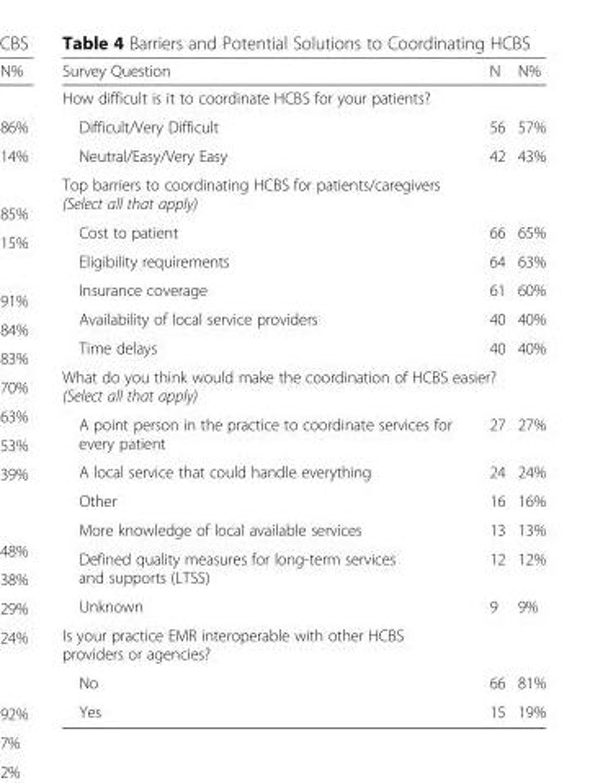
<table><thead><tr><td>Survey Question</td><td>N</td><td>N%</td></tr></thead><tbody><tr><td colspan="3">How difficult is it to coordinate HCBS for your patients?</td></tr><tr><td>Difficult/Very Difficult</td><td>56</td><td>57%</td></tr><tr><td>Neutral/Easy/Very Easy</td><td>42</td><td>43%</td></tr><tr><td colspan="3">Top barriers to coordinating HCBS for patients/caregivers (Select all that apply)</td></tr><tr><td>Cost to patient</td><td>66</td><td>65%</td></tr><tr><td>Eligibility requirements</td><td>64</td><td>63%</td></tr><tr><td>Insurance coverage</td><td>61</td><td>60%</td></tr><tr><td>Availability of local service providers</td><td>40</td><td>40%</td></tr><tr><td>Time delays</td><td>40</td><td>40%</td></tr><tr><td colspan="3">What do you think would make the coordination of HCBS easier? (Select all that apply)</td></tr><tr><td>A point person in the practice to coordinate services for every patient</td><td>27</td><td>27%</td></tr><tr><td>A local service that could handle everything</td><td>24</td><td>24%</td></tr><tr><td>Other</td><td>16</td><td>16%</td></tr><tr><td>More knowledge of local available services</td><td>13</td><td>13%</td></tr><tr><td>Defined quality measures for long-term services and supports (LTSS)</td><td>12</td><td>12%</td></tr><tr><td>Unknown</td><td>9</td><td>9%</td></tr><tr><td colspan="3">Is your practice EMR interoperable with other HCBS providers or agencies?</td></tr><tr><td>No</td><td>66</td><td>81%</td></tr><tr><td>Yes</td><td>15</td><td>19%</td></tr></tbody></table>